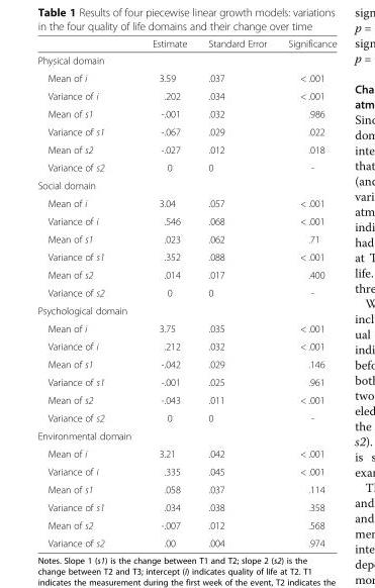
<table><thead><tr><td></td><td>Estimate</td><td>Standard Error</td><td>Significance</td></tr></thead><tbody><tr><td colspan="4">Physical domain</td></tr><tr><td>Mean of i</td><td>3.59</td><td>.037</td><td>&lt; .001</td></tr><tr><td>Variance of i</td><td>.202</td><td>.034</td><td>&lt; .001</td></tr><tr><td>Mean of s1</td><td>-.001</td><td>.032</td><td>.986</td></tr><tr><td>Variance of s1</td><td>-.067</td><td>.029</td><td>.022</td></tr><tr><td>Mean of s2</td><td>-.027</td><td>.012</td><td>.018</td></tr><tr><td>Variance of s2</td><td>0</td><td>0</td><td>-</td></tr><tr><td colspan="4">Social domain</td></tr><tr><td>Mean of i</td><td>3.04</td><td>.057</td><td>&lt; .001</td></tr><tr><td>Variance of i</td><td>.546</td><td>.068</td><td>&lt; .001</td></tr><tr><td>Mean of s1</td><td>.023</td><td>.062</td><td>.71</td></tr><tr><td>Variance of s1</td><td>.352</td><td>.088</td><td>&lt; .001</td></tr><tr><td>Mean of s2</td><td>.014</td><td>.017</td><td>.400</td></tr><tr><td>Variance of s2</td><td>0</td><td>0</td><td>-</td></tr><tr><td colspan="4">Psychological domain</td></tr><tr><td>Mean of i</td><td>3.75</td><td>.035</td><td>&lt; .001</td></tr><tr><td>Variance of i</td><td>.212</td><td>.032</td><td>&lt; .001</td></tr><tr><td>Mean of s1</td><td>-.042</td><td>.029</td><td>.146</td></tr><tr><td>Variance of s1</td><td>-.001</td><td>.025</td><td>.961</td></tr><tr><td>Mean of s2</td><td>-.043</td><td>.011</td><td>&lt; .001</td></tr><tr><td>Variance of s2</td><td>0</td><td>0</td><td>-</td></tr><tr><td colspan="4">Environmental domain</td></tr><tr><td>Mean of i</td><td>3.21</td><td>.042</td><td>&lt; .001</td></tr><tr><td>Variance of i</td><td>.335</td><td>.045</td><td>&lt; .001</td></tr><tr><td>Mean of s1</td><td>.058</td><td>.037</td><td>.114</td></tr><tr><td>Variance of s1</td><td>.034</td><td>.038</td><td>.358</td></tr><tr><td>Mean of s2</td><td>-.007</td><td>.012</td><td>.568</td></tr><tr><td>Variance of s2</td><td>.00</td><td>.004</td><td>.974</td></tr></tbody></table>